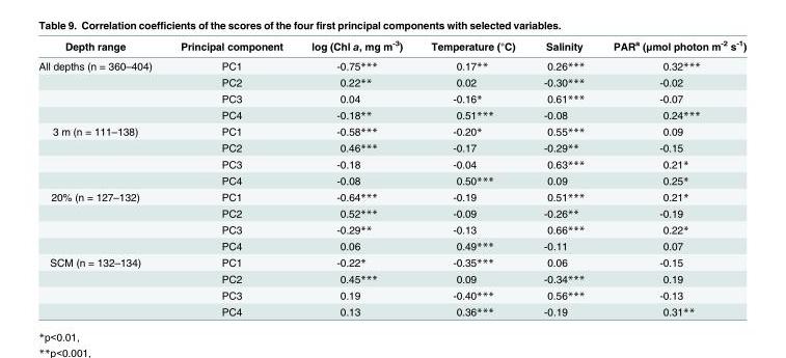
<table><thead><tr><td>Depth range</td><td>Principal component</td><td>log (Chl a, mg m<sup>-3</sup>)</td><td>Temperature (°C)</td><td>Salinity</td><td>PAR<sup>a</sup> (μmol photon m<sup>-2</sup> s<sup>-1</sup>)</td></tr></thead><tbody><tr><td rowspan="4">All depths (n = 360–404)</td><td>PC1</td><td>-0.75***</td><td>0.17**</td><td>0.26***</td><td>0.32***</td></tr><tr><td>PC2</td><td>0.22**</td><td>0.02</td><td>-0.30***</td><td>-0.02</td></tr><tr><td>PC3</td><td>0.04</td><td>-0.16*</td><td>0.61***</td><td>-0.07</td></tr><tr><td>PC4</td><td>-0.18**</td><td>0.51***</td><td>-0.08</td><td>0.24***</td></tr><tr><td rowspan="4">3 m (n = 111–138)</td><td>PC1</td><td>-0.58***</td><td>-0.20*</td><td>0.55***</td><td>0.09</td></tr><tr><td>PC2</td><td>0.46***</td><td>-0.17</td><td>-0.29**</td><td>-0.15</td></tr><tr><td>PC3</td><td>-0.18</td><td>-0.04</td><td>0.63***</td><td>0.21*</td></tr><tr><td>PC4</td><td>-0.08</td><td>0.50***</td><td>0.09</td><td>0.25*</td></tr><tr><td rowspan="4">20% (n = 127–132)</td><td>PC1</td><td>-0.64***</td><td>-0.19</td><td>0.51***</td><td>0.21*</td></tr><tr><td>PC2</td><td>0.52***</td><td>-0.09</td><td>-0.26**</td><td>-0.19</td></tr><tr><td>PC3</td><td>-0.29**</td><td>-0.13</td><td>0.66***</td><td>0.22*</td></tr><tr><td>PC4</td><td>0.06</td><td>0.49***</td><td>-0.11</td><td>0.07</td></tr><tr><td rowspan="4">SCM (n = 132–134)</td><td>PC1</td><td>-0.22*</td><td>-0.35***</td><td>0.06</td><td>-0.15</td></tr><tr><td>PC2</td><td>0.45***</td><td>0.09</td><td>-0.34***</td><td>0.19</td></tr><tr><td>PC3</td><td>0.19</td><td>-0.40***</td><td>0.56***</td><td>-0.13</td></tr><tr><td>PC4</td><td>0.13</td><td>0.36***</td><td>-0.19</td><td>0.31**</td></tr></tbody></table>